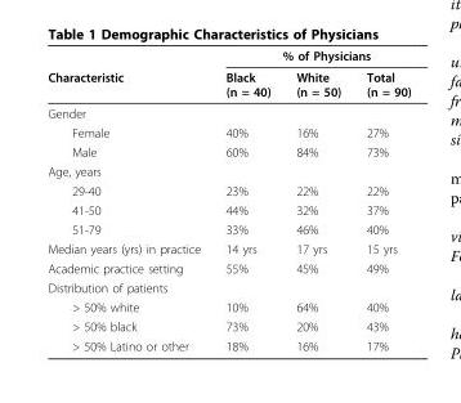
<table><thead><tr><td rowspan="2">Characteristic</td><td colspan="3">% of Physicians</td></tr><tr><td>Black (n = 40)</td><td>White (n = 50)</td><td>Total (n = 90)</td></tr></thead><tbody><tr><td colspan="4">Gender</td></tr><tr><td>Female</td><td>40%</td><td>16%</td><td>27%</td></tr><tr><td>Male</td><td>60%</td><td>84%</td><td>73%</td></tr><tr><td colspan="4">Age, years</td></tr><tr><td>29-40</td><td>23%</td><td>22%</td><td>22%</td></tr><tr><td>41-50</td><td>44%</td><td>32%</td><td>37%</td></tr><tr><td>51-79</td><td>33%</td><td>46%</td><td>40%</td></tr><tr><td>Median years (yrs) in practice</td><td>14 yrs</td><td>17 yrs</td><td>15 yrs</td></tr><tr><td>Academic practice setting</td><td>55%</td><td>45%</td><td>49%</td></tr><tr><td colspan="4">Distribution of patients</td></tr><tr><td>&gt; 50% white</td><td>10%</td><td>64%</td><td>40%</td></tr><tr><td>&gt; 50% black</td><td>73%</td><td>20%</td><td>43%</td></tr><tr><td>&gt; 50% Latino or other</td><td>18%</td><td>16%</td><td>17%</td></tr></tbody></table>